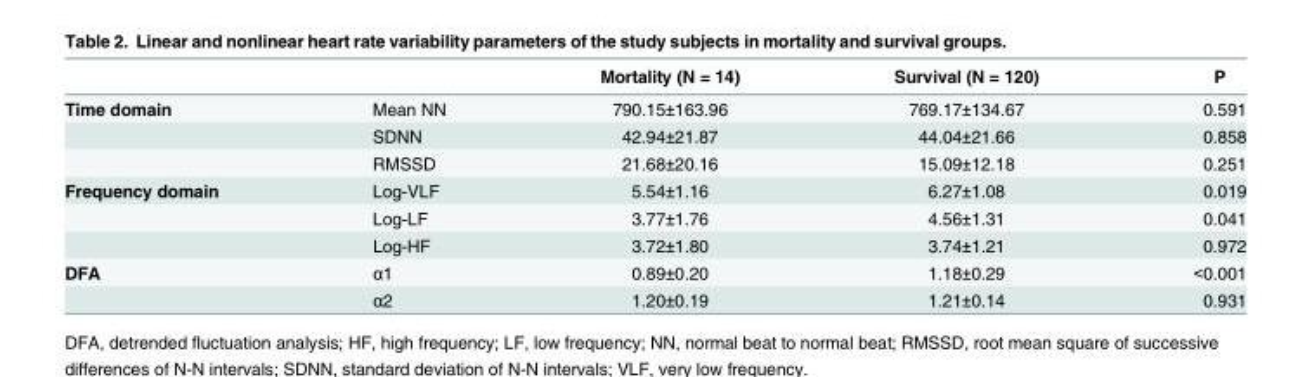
<table><thead><tr><td></td><td></td><td>Mortality (N = 14)</td><td>Survival (N = 120)</td><td>P</td></tr></thead><tbody><tr><td rowspan="3">Time domain</td><td>Mean NN</td><td>790.15±163.96</td><td>769.17±134.67</td><td>0.591</td></tr><tr><td>SDNN</td><td>42.94±21.87</td><td>44.04±21.66</td><td>0.858</td></tr><tr><td>RMSSD</td><td>21.68±20.16</td><td>15.09±12.18</td><td>0.251</td></tr><tr><td rowspan="3">Frequency domain</td><td>Log-VLF</td><td>5.54±1.16</td><td>6.27±1.08</td><td>0.019</td></tr><tr><td>Log-LF</td><td>3.77±1.76</td><td>4.56±1.31</td><td>0.041</td></tr><tr><td>Log-HF</td><td>3.72±1.80</td><td>3.74±1.21</td><td>0.972</td></tr><tr><td rowspan="2">DFA</td><td>α1</td><td>0.89±0.20</td><td>1.18±0.29</td><td>&lt;0.001</td></tr><tr><td>α2</td><td>1.20±0.19</td><td>1.21±0.14</td><td>0.931</td></tr></tbody></table>